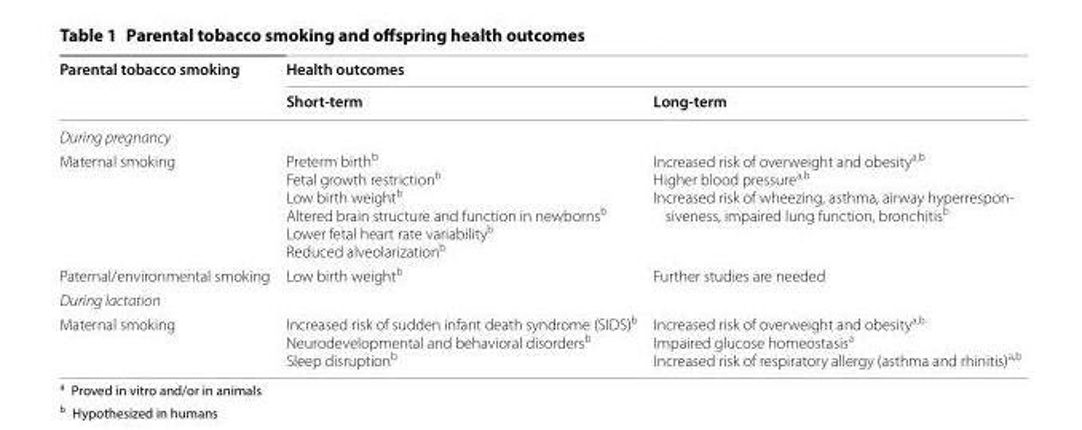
<table><thead><tr><td rowspan="2">Parental tobacco smoking</td><td colspan="2">Health outcomes</td></tr><tr><td>Short-term</td><td>Long-term</td></tr></thead><tbody><tr><td colspan="3">During pregnancy</td></tr><tr><td>Maternal smoking</td><td>Preterm birth<sup>b</sup> Fetal growth restriction<sup>b</sup> Low birth weight<sup>b</sup> Altered brain structure and function in newborns<sup>b</sup> Lower fetal heart rate variability<sup>b</sup> Reduced alveolarization<sup>b</sup></td><td>Increased risk of overweight and obesitya,b Higher blood pressurea,b Increased risk of wheezing, asthma, airway hyperrespon- siveness, impaired lung function, bronchitisb</td></tr><tr><td>Paternal/environmental smoking</td><td>Low birth weight<sup>b</sup></td><td>Further studies are needed</td></tr><tr><td colspan="3">During lactation</td></tr><tr><td>Maternal smoking</td><td>Increased risk of sudden infant death syndrome (SIDS)<sup>b</sup> Neurodevelopmental and behavioral disorders<sup>b</sup> Sleep disruption<sup>b</sup></td><td>Increased risk of overweight and obesity<sup>a,b</sup> Impaired glucose homeostasis<sup>a</sup> Increased risk of respiratory allergy (asthma and rhinitis)<sup>a,b</sup></td></tr></tbody></table>